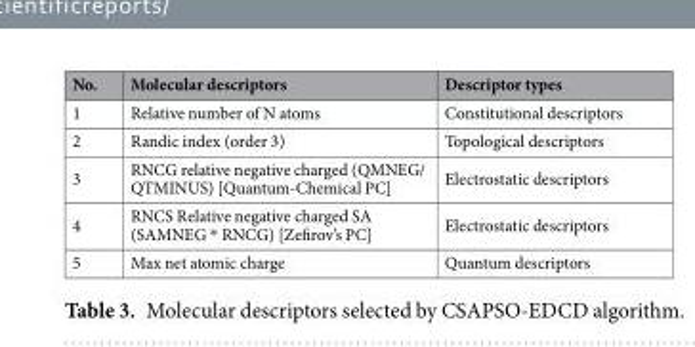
<table><thead><tr><td>No.</td><td>Molecular descriptors</td><td>Descriptor types</td></tr></thead><tbody><tr><td>1</td><td>Relative number of N atoms</td><td>Constitutional descriptors</td></tr><tr><td>2</td><td>Randic index (order 3)</td><td>Topological descriptors</td></tr><tr><td>3</td><td>RNCG relative negative charged (QMNEG/ QTMINUS) [Quantum-Chemical PC]</td><td>Electrostatic descriptors</td></tr><tr><td>4</td><td>RNCS Relative negative charged SA (SAMNEG * RNCG) [Zefirov’s PC]</td><td>Electrostatic descriptors</td></tr><tr><td>5</td><td>Max net atomic charge</td><td>Quantum descriptors</td></tr></tbody></table>